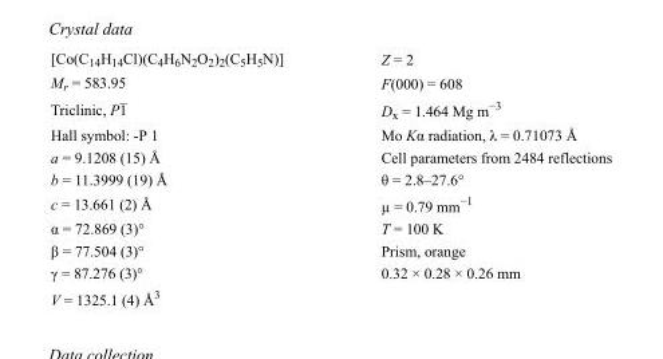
<table><tbody><tr><td>[Co(C<sub>14</sub>H<sub>14</sub>Cl)(C<sub>4</sub>H<sub>6</sub>N<sub>2</sub>O<sub>2</sub>)<sub>2</sub>(C<sub>5</sub>H<sub>5</sub>N)]</td><td>Z = 2</td></tr><tr><td>M<sub>r</sub> = 583.95</td><td>F(000) = 608</td></tr><tr><td>Triclinic, P1</td><td>D<sub>x</sub> = 1.464 Mg m<sup>−3</sup></td></tr><tr><td>Hall symbol: -P 1</td><td>Mo Kα radiation, λ = 0.71073 Å</td></tr><tr><td>a = 9.1208 (15) Å</td><td>Cell parameters from 2484 reflections</td></tr><tr><td>b = 11.3999 (19) Å</td><td>θ = 2.8–27.6°</td></tr><tr><td>c = 13.661 (2) Å</td><td>µ = 0.79 mm<sup>−1</sup></td></tr><tr><td>α = 72.869 (3)°</td><td>T = 100 K</td></tr><tr><td>β = 77.504 (3)°</td><td>Prism, orange</td></tr><tr><td>γ = 87.276 (3)°</td><td>0.32 × 0.28 × 0.26 mm</td></tr><tr><td>V = 1325.1 (4) Å<sup>3</sup></td><td></td></tr></tbody></table>